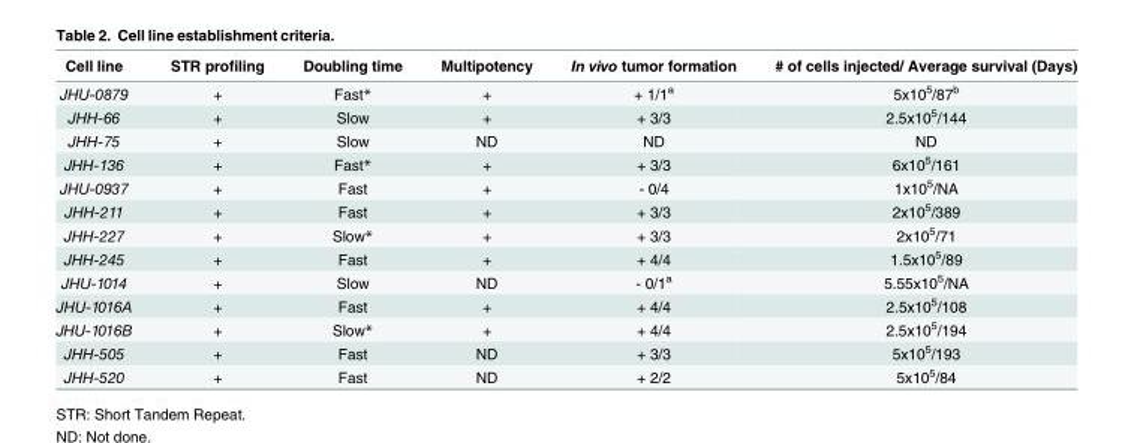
<table><thead><tr><td>Cell line</td><td>STR profiling</td><td>Doubling time</td><td>Multipotency</td><td>In vivo tumor formation</td><td># of cells injected/ Average survival (Days)</td></tr></thead><tbody><tr><td>JHU-0879</td><td>+</td><td>Fast*</td><td>+</td><td>+ 1/1<sup>a</sup></td><td>5x10<sup>5</sup>/87<sup>b</sup></td></tr><tr><td>JHH-66</td><td>+</td><td>Slow</td><td>+</td><td>+ 3/3</td><td>2.5x10<sup>5</sup>/144</td></tr><tr><td>JHH-75</td><td>+</td><td>Slow</td><td>ND</td><td>ND</td><td>ND</td></tr><tr><td>JHH-136</td><td>+</td><td>Fast*</td><td>+</td><td>+ 3/3</td><td>6x10<sup>5</sup>/161</td></tr><tr><td>JHU-0937</td><td>+</td><td>Fast</td><td>+</td><td>- 0/4</td><td>1x10<sup>5</sup>/NA</td></tr><tr><td>JHH-211</td><td>+</td><td>Fast</td><td>+</td><td>+ 3/3</td><td>2x10<sup>5</sup>/389</td></tr><tr><td>JHH-227</td><td>+</td><td>Slow*</td><td>+</td><td>+ 3/3</td><td>2x10<sup>5</sup>/71</td></tr><tr><td>JHH-245</td><td>+</td><td>Fast</td><td>+</td><td>+ 4/4</td><td>1.5x10<sup>5</sup>/89</td></tr><tr><td>JHU-1014</td><td>+</td><td>Slow</td><td>ND</td><td>- 0/1<sup>a</sup></td><td>5.55x10<sup>5</sup>/NA</td></tr><tr><td>JHU-1016A</td><td>+</td><td>Fast</td><td>+</td><td>+ 4/4</td><td>2.5x10<sup>5</sup>/108</td></tr><tr><td>JHU-1016B</td><td>+</td><td>Slow*</td><td>+</td><td>+ 4/4</td><td>2.5x10<sup>5</sup>/194</td></tr><tr><td>JHH-505</td><td>+</td><td>Fast</td><td>ND</td><td>+ 3/3</td><td>5x10<sup>5</sup>/193</td></tr><tr><td>JHH-520</td><td>+</td><td>Fast</td><td>ND</td><td>+ 2/2</td><td>5x10<sup>5</sup>/84</td></tr></tbody></table>